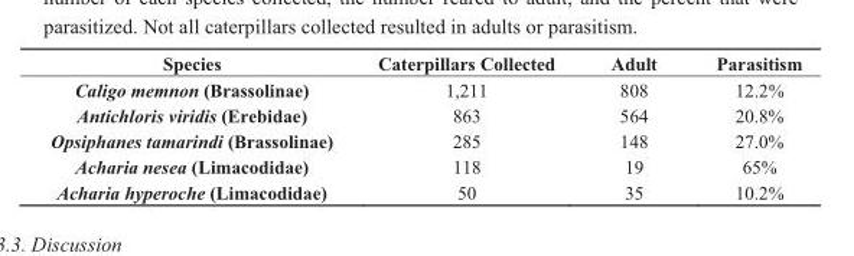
<table><thead><tr><td>Species</td><td>Caterpillars Collected</td><td>Adult</td><td>Parasitism</td></tr></thead><tbody><tr><td>Caligo memnon (Brassolinae)</td><td>1,211</td><td>808</td><td>12.2%</td></tr><tr><td>Antichloris viridis (Erebidae)</td><td>863</td><td>564</td><td>20.8%</td></tr><tr><td>Opsiphanes tamarindi (Brassolinae)</td><td>285</td><td>148</td><td>27.0%</td></tr><tr><td>Acharia nesea (Limacodidae)</td><td>118</td><td>19</td><td>65%</td></tr><tr><td>Acharia hyperoche (Limacodidae)</td><td>50</td><td>35</td><td>10.2%</td></tr></tbody></table>